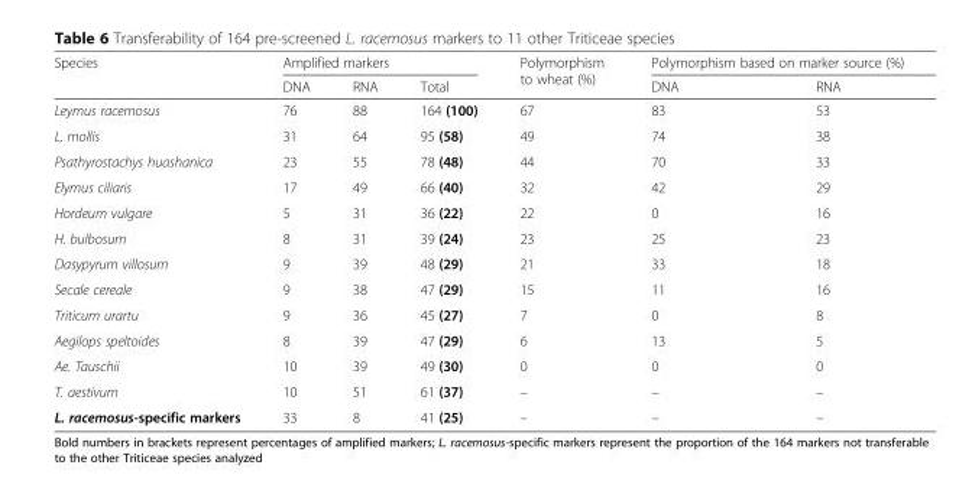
<table><thead><tr><td rowspan="2">Species</td><td colspan="3">Amplified markers</td><td rowspan="2">Polymorphism to wheat (%)</td><td colspan="2">Polymorphism based on marker source (%)</td></tr><tr><td>DNA</td><td>RNA</td><td>Total</td><td>DNA</td><td>RNA</td></tr></thead><tbody><tr><td>Leymus racemosus</td><td>76</td><td>88</td><td>164 (100)</td><td>67</td><td>83</td><td>53</td></tr><tr><td>L. mollis</td><td>31</td><td>64</td><td>95 (58)</td><td>49</td><td>74</td><td>38</td></tr><tr><td>Psathyrostachys huashanica</td><td>23</td><td>55</td><td>78 (48)</td><td>44</td><td>70</td><td>33</td></tr><tr><td>Elymus ciliaris</td><td>17</td><td>49</td><td>66 (40)</td><td>32</td><td>42</td><td>29</td></tr><tr><td>Hordeum vulgare</td><td>5</td><td>31</td><td>36 (22)</td><td>22</td><td>0</td><td>16</td></tr><tr><td>H. bulbosum</td><td>8</td><td>31</td><td>39 (24)</td><td>23</td><td>25</td><td>23</td></tr><tr><td>Dasypyrum villosum</td><td>9</td><td>39</td><td>48 (29)</td><td>21</td><td>33</td><td>18</td></tr><tr><td>Secale cereale</td><td>9</td><td>38</td><td>47 (29)</td><td>15</td><td>11</td><td>16</td></tr><tr><td>Triticum urartu</td><td>9</td><td>36</td><td>45 (27)</td><td>7</td><td>0</td><td>8</td></tr><tr><td>Aegilops speltoides</td><td>8</td><td>39</td><td>47 (29)</td><td>6</td><td>13</td><td>5</td></tr><tr><td>Ae. Tauschii</td><td>10</td><td>39</td><td>49 (30)</td><td>0</td><td>0</td><td>0</td></tr><tr><td>T. aestivum</td><td>10</td><td>51</td><td>61 (37)</td><td>–</td><td>–</td><td>–</td></tr><tr><td>L. racemosus-specific markers</td><td>33</td><td>8</td><td>41 (25)</td><td>–</td><td>–</td><td>–</td></tr></tbody></table>